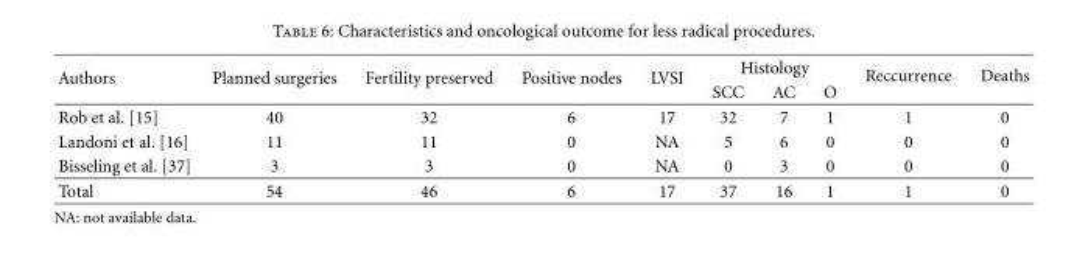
<table><thead><tr><td rowspan="2">Authors</td><td rowspan="2">Planned surgeries</td><td rowspan="2">Fertility preserved</td><td rowspan="2">Positive nodes</td><td rowspan="2">LVSI</td><td colspan="3">Histology</td><td rowspan="2">Reccurrence</td><td rowspan="2">Deaths</td></tr><tr><td>SCC</td><td>AC</td><td>O</td></tr></thead><tbody><tr><td>Rob et al. [15]</td><td>40</td><td>32</td><td>6</td><td>17</td><td>32</td><td>7</td><td>1</td><td>1</td><td>0</td></tr><tr><td>Landoni et al. [16]</td><td>11</td><td>11</td><td>0</td><td>NA</td><td>5</td><td>6</td><td>0</td><td>0</td><td>0</td></tr><tr><td>Bisseling et al. [37]</td><td>3</td><td>3</td><td>0</td><td>NA</td><td>0</td><td>3</td><td>0</td><td>0</td><td>0</td></tr><tr><td>Total</td><td>54</td><td>46</td><td>6</td><td>17</td><td>37</td><td>16</td><td>1</td><td>1</td><td>0</td></tr></tbody></table>